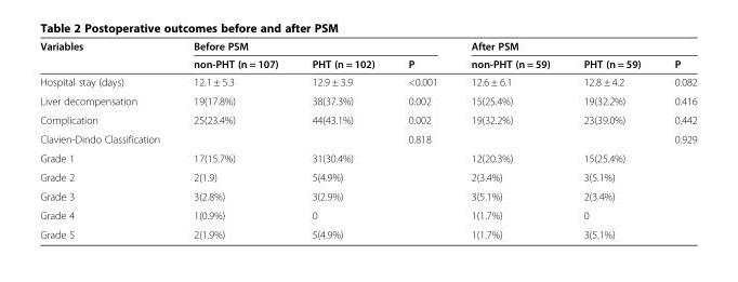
<table><thead><tr><td rowspan="2">Variables</td><td colspan="3">Before PSM</td><td colspan="3">After PSM</td></tr><tr><td>non-PHT (n = 107)</td><td>PHT (n = 102)</td><td>P</td><td>non-PHT (n = 59)</td><td>PHT (n = 59)</td><td>P</td></tr></thead><tbody><tr><td>Hospital stay (days)</td><td>12.1 ± 5.3</td><td>12.9 ± 3.9</td><td>&lt;0.001</td><td>12.6 ± 6.1</td><td>12.8 ± 4.2</td><td>0.082</td></tr><tr><td>Liver decompensation</td><td>19(17.8%)</td><td>38(37.3%)</td><td>0.002</td><td>15(25.4%)</td><td>19(32.2%)</td><td>0.416</td></tr><tr><td>Complication</td><td>25(23.4%)</td><td>44(43.1%)</td><td>0.002</td><td>19(32.2%)</td><td>23(39.0%)</td><td>0.442</td></tr><tr><td>Clavien-Dindo Classification</td><td></td><td></td><td>0.818</td><td></td><td></td><td>0.929</td></tr><tr><td>Grade 1</td><td>17(15.7%)</td><td>31(30.4%)</td><td></td><td>12(20.3%)</td><td>15(25.4%)</td><td></td></tr><tr><td>Grade 2</td><td>2(1.9)</td><td>5(4.9%)</td><td></td><td>2(3.4%)</td><td>3(5.1%)</td><td></td></tr><tr><td>Grade 3</td><td>3(2.8%)</td><td>3(2.9%)</td><td></td><td>3(5.1%)</td><td>2(3.4%)</td><td></td></tr><tr><td>Grade 4</td><td>1(0.9%)</td><td>0</td><td></td><td>1(1.7%)</td><td>0</td><td></td></tr><tr><td>Grade 5</td><td>2(1.9%)</td><td>5(4.9%)</td><td></td><td>1(1.7%)</td><td>3(5.1%)</td><td></td></tr></tbody></table>